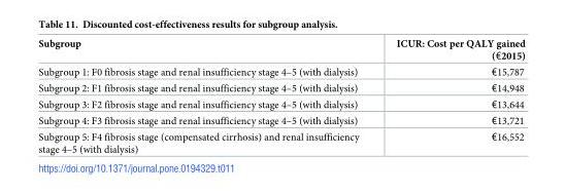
<table><thead><tr><td>Subgroup</td><td>ICUR: Cost per QALY gained (€2015)</td></tr></thead><tbody><tr><td>Subgroup 1: F0 fibrosis stage and renal insufficiency stage 4–5 (with dialysis)</td><td>€15,787</td></tr><tr><td>Subgroup 2: F1 fibrosis stage and renal insufficiency stage 4–5 (with dialysis)</td><td>€14,948</td></tr><tr><td>Subgroup 3: F2 fibrosis stage and renal insufficiency stage 4–5 (with dialysis)</td><td>€13,644</td></tr><tr><td>Subgroup 4: F3 fibrosis stage and renal insufficiency stage 4–5 (with dialysis)</td><td>€13,721</td></tr><tr><td>Subgroup 5: F4 fibrosis stage (compensated cirrhosis) and renal insufficiency stage 4–5 (with dialysis)</td><td>€16,552</td></tr></tbody></table>